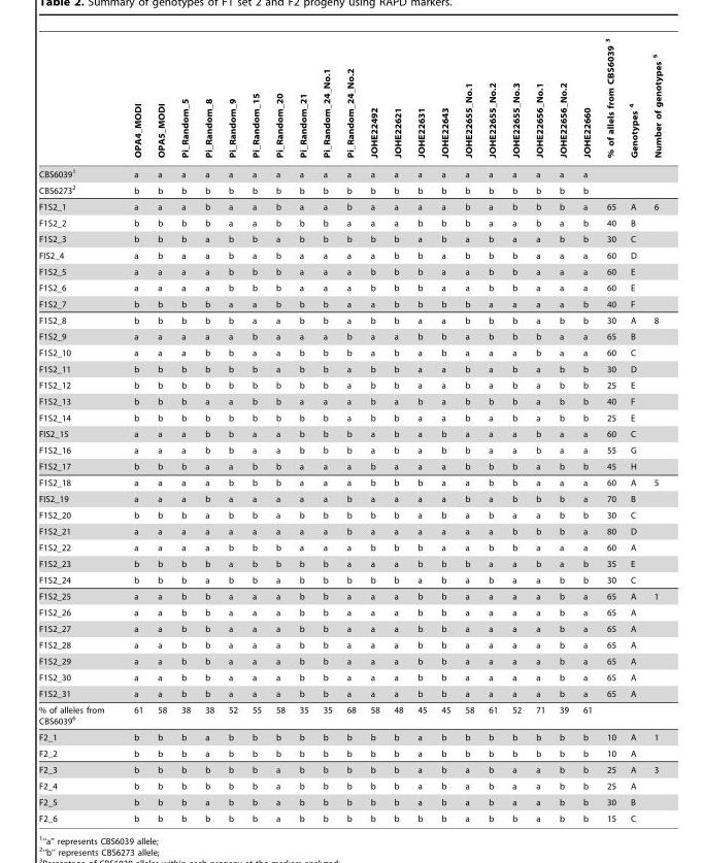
<table><thead><tr><td></td><td>OPA4_MODI</td><td>OPA5_MODI</td><td>Pi_Random_5</td><td>Pi_Random_8</td><td>Pi_Random_9</td><td>Pi_Random_15</td><td>Pi_Random_20</td><td>Pi_Random_21</td><td>Pi_Random_24_No.1</td><td>Pi_Random_24_No.2</td><td>JOHE22492</td><td>JOHE22621</td><td>JOHE22631</td><td>JOHE22643</td><td>JOHE22655_No.1</td><td>JOHE22655_No.2</td><td>JOHE22655_No.3</td><td>JOHE22656_No.1</td><td>JOHE22656_No.2</td><td>JOHE22660</td><td>% of allels from CBS6039 3</td><td>Genotypes 4</td><td>Number of genotypes 5</td></tr></thead><tbody><tr><td>CBS6039<sup>1</sup></td><td>a</td><td>a</td><td>a</td><td>a</td><td>a</td><td>a</td><td>a</td><td>a</td><td>a</td><td>a</td><td>a</td><td>a</td><td>a</td><td>a</td><td>a</td><td>a</td><td>a</td><td>a</td><td>a</td><td>a</td><td></td><td></td><td></td></tr><tr><td>CBS6273<sup>2</sup></td><td>b</td><td>b</td><td>b</td><td>b</td><td>b</td><td>b</td><td>b</td><td>b</td><td>b</td><td>b</td><td>b</td><td>b</td><td>b</td><td>b</td><td>b</td><td>b</td><td>b</td><td>b</td><td>b</td><td>b</td><td></td><td></td><td></td></tr><tr><td>F1S2_1</td><td>a</td><td>a</td><td>a</td><td>b</td><td>a</td><td>a</td><td>b</td><td>a</td><td>a</td><td>b</td><td>a</td><td>a</td><td>a</td><td>a</td><td>b</td><td>a</td><td>b</td><td>b</td><td>b</td><td>a</td><td>65</td><td>A</td><td>6</td></tr><tr><td>F1S2_2</td><td>b</td><td>b</td><td>b</td><td>b</td><td>a</td><td>a</td><td>b</td><td>b</td><td>b</td><td>a</td><td>a</td><td>a</td><td>b</td><td>b</td><td>b</td><td>a</td><td>a</td><td>b</td><td>a</td><td>b</td><td>40</td><td>B</td><td></td></tr><tr><td>F1S2_3</td><td>b</td><td>b</td><td>b</td><td>a</td><td>b</td><td>b</td><td>a</td><td>b</td><td>b</td><td>b</td><td>b</td><td>b</td><td>a</td><td>b</td><td>a</td><td>b</td><td>a</td><td>a</td><td>b</td><td>b</td><td>30</td><td>C</td><td></td></tr><tr><td>FIS2_4</td><td>a</td><td>b</td><td>a</td><td>a</td><td>b</td><td>a</td><td>b</td><td>a</td><td>a</td><td>a</td><td>a</td><td>b</td><td>b</td><td>a</td><td>b</td><td>b</td><td>b</td><td>a</td><td>a</td><td>a</td><td>60</td><td>D</td><td></td></tr><tr><td>F1S2_5</td><td>a</td><td>a</td><td>a</td><td>a</td><td>b</td><td>b</td><td>b</td><td>a</td><td>a</td><td>a</td><td>b</td><td>b</td><td>b</td><td>a</td><td>a</td><td>b</td><td>b</td><td>a</td><td>a</td><td>a</td><td>60</td><td>E</td><td></td></tr><tr><td>F1S2_6</td><td>a</td><td>a</td><td>a</td><td>a</td><td>b</td><td>b</td><td>b</td><td>a</td><td>a</td><td>a</td><td>b</td><td>b</td><td>b</td><td>a</td><td>a</td><td>b</td><td>b</td><td>a</td><td>a</td><td>a</td><td>60</td><td>E</td><td></td></tr><tr><td>F1S2_7</td><td>b</td><td>b</td><td>b</td><td>b</td><td>a</td><td>a</td><td>b</td><td>b</td><td>b</td><td>a</td><td>a</td><td>b</td><td>b</td><td>b</td><td>b</td><td>a</td><td>a</td><td>a</td><td>a</td><td>b</td><td>40</td><td>F</td><td></td></tr><tr><td>F1S2_8</td><td>b</td><td>b</td><td>b</td><td>b</td><td>b</td><td>a</td><td>a</td><td>b</td><td>b</td><td>a</td><td>b</td><td>b</td><td>a</td><td>a</td><td>b</td><td>b</td><td>b</td><td>a</td><td>b</td><td>b</td><td>30</td><td>A</td><td>8</td></tr><tr><td>F1S2_9</td><td>a</td><td>a</td><td>a</td><td>a</td><td>a</td><td>b</td><td>a</td><td>a</td><td>a</td><td>b</td><td>a</td><td>a</td><td>b</td><td>b</td><td>a</td><td>b</td><td>b</td><td>b</td><td>a</td><td>a</td><td>65</td><td>B</td><td></td></tr><tr><td>F1S2_10</td><td>a</td><td>a</td><td>a</td><td>b</td><td>b</td><td>a</td><td>a</td><td>b</td><td>b</td><td>b</td><td>a</td><td>b</td><td>a</td><td>b</td><td>a</td><td>a</td><td>a</td><td>b</td><td>a</td><td>a</td><td>60</td><td>C</td><td></td></tr><tr><td>F1S2_11</td><td>b</td><td>b</td><td>b</td><td>b</td><td>b</td><td>b</td><td>a</td><td>b</td><td>b</td><td>a</td><td>b</td><td>b</td><td>a</td><td>a</td><td>b</td><td>a</td><td>b</td><td>a</td><td>b</td><td>b</td><td>30</td><td>D</td><td></td></tr><tr><td>F1S2_12</td><td>b</td><td>b</td><td>b</td><td>b</td><td>b</td><td>b</td><td>b</td><td>b</td><td>b</td><td>a</td><td>b</td><td>b</td><td>a</td><td>a</td><td>b</td><td>a</td><td>b</td><td>a</td><td>b</td><td>b</td><td>25</td><td>E</td><td></td></tr><tr><td>F1S2_13</td><td>b</td><td>b</td><td>b</td><td>a</td><td>a</td><td>b</td><td>b</td><td>a</td><td>a</td><td>a</td><td>b</td><td>a</td><td>b</td><td>a</td><td>b</td><td>b</td><td>b</td><td>a</td><td>b</td><td>b</td><td>40</td><td>F</td><td></td></tr><tr><td>F1S2_14</td><td>b</td><td>b</td><td>b</td><td>b</td><td>b</td><td>b</td><td>b</td><td>b</td><td>b</td><td>a</td><td>b</td><td>b</td><td>a</td><td>a</td><td>b</td><td>a</td><td>b</td><td>a</td><td>b</td><td>b</td><td>25</td><td>E</td><td></td></tr><tr><td>FIS2_15</td><td>a</td><td>a</td><td>a</td><td>b</td><td>b</td><td>a</td><td>a</td><td>b</td><td>b</td><td>b</td><td>a</td><td>b</td><td>a</td><td>b</td><td>a</td><td>a</td><td>a</td><td>b</td><td>a</td><td>a</td><td>60</td><td>C</td><td></td></tr><tr><td>F1S2_16</td><td>a</td><td>a</td><td>a</td><td>b</td><td>b</td><td>a</td><td>a</td><td>b</td><td>b</td><td>b</td><td>a</td><td>b</td><td>a</td><td>b</td><td>b</td><td>a</td><td>a</td><td>b</td><td>a</td><td>a</td><td>55</td><td>G</td><td></td></tr><tr><td>F1S2_17</td><td>b</td><td>b</td><td>b</td><td>a</td><td>a</td><td>b</td><td>b</td><td>a</td><td>a</td><td>a</td><td>b</td><td>a</td><td>a</td><td>a</td><td>b</td><td>b</td><td>b</td><td>a</td><td>b</td><td>b</td><td>45</td><td>H</td><td></td></tr><tr><td>F1S2_18</td><td>a</td><td>a</td><td>a</td><td>a</td><td>b</td><td>b</td><td>b</td><td>a</td><td>a</td><td>a</td><td>b</td><td>b</td><td>b</td><td>a</td><td>a</td><td>b</td><td>b</td><td>a</td><td>a</td><td>a</td><td>60</td><td>A</td><td>5</td></tr><tr><td>FIS2_19</td><td>a</td><td>a</td><td>a</td><td>b</td><td>a</td><td>a</td><td>a</td><td>a</td><td>a</td><td>b</td><td>a</td><td>a</td><td>a</td><td>a</td><td>b</td><td>a</td><td>b</td><td>b</td><td>b</td><td>a</td><td>70</td><td>B</td><td></td></tr><tr><td>F1S2_20</td><td>b</td><td>b</td><td>b</td><td>a</td><td>b</td><td>b</td><td>a</td><td>b</td><td>b</td><td>b</td><td>b</td><td>b</td><td>a</td><td>b</td><td>a</td><td>b</td><td>a</td><td>a</td><td>b</td><td>b</td><td>30</td><td>C</td><td></td></tr><tr><td>F1S2_21</td><td>a</td><td>a</td><td>a</td><td>a</td><td>a</td><td>a</td><td>a</td><td>a</td><td>a</td><td>b</td><td>a</td><td>a</td><td>a</td><td>a</td><td>a</td><td>a</td><td>b</td><td>b</td><td>b</td><td>a</td><td>80</td><td>D</td><td></td></tr><tr><td>F1S2_22</td><td>a</td><td>a</td><td>a</td><td>a</td><td>b</td><td>b</td><td>b</td><td>a</td><td>a</td><td>a</td><td>b</td><td>b</td><td>b</td><td>a</td><td>a</td><td>b</td><td>b</td><td>a</td><td>a</td><td>a</td><td>60</td><td>A</td><td></td></tr><tr><td>F1S2_23</td><td>b</td><td>b</td><td>b</td><td>b</td><td>a</td><td>b</td><td>b</td><td>b</td><td>b</td><td>a</td><td>a</td><td>a</td><td>b</td><td>b</td><td>b</td><td>a</td><td>a</td><td>b</td><td>a</td><td>b</td><td>35</td><td>E</td><td></td></tr><tr><td>F1S2_24</td><td>b</td><td>b</td><td>b</td><td>a</td><td>b</td><td>b</td><td>a</td><td>b</td><td>b</td><td>b</td><td>b</td><td>b</td><td>a</td><td>b</td><td>a</td><td>b</td><td>a</td><td>a</td><td>b</td><td>b</td><td>30</td><td>C</td><td></td></tr><tr><td>F1S2_25</td><td>a</td><td>a</td><td>b</td><td>b</td><td>a</td><td>a</td><td>a</td><td>b</td><td>b</td><td>a</td><td>a</td><td>a</td><td>b</td><td>b</td><td>a</td><td>a</td><td>a</td><td>a</td><td>b</td><td>a</td><td>65</td><td>A</td><td>1</td></tr><tr><td>F1S2_26</td><td>a</td><td>a</td><td>b</td><td>b</td><td>a</td><td>a</td><td>a</td><td>b</td><td>b</td><td>a</td><td>a</td><td>a</td><td>b</td><td>b</td><td>a</td><td>a</td><td>a</td><td>a</td><td>b</td><td>a</td><td>65</td><td>A</td><td></td></tr><tr><td>F1S2_27</td><td>a</td><td>a</td><td>b</td><td>b</td><td>a</td><td>a</td><td>a</td><td>b</td><td>b</td><td>a</td><td>a</td><td>a</td><td>b</td><td>b</td><td>a</td><td>a</td><td>a</td><td>a</td><td>b</td><td>a</td><td>65</td><td>A</td><td></td></tr><tr><td>F1S2_28</td><td>a</td><td>a</td><td>b</td><td>b</td><td>a</td><td>a</td><td>a</td><td>b</td><td>b</td><td>a</td><td>a</td><td>a</td><td>b</td><td>b</td><td>a</td><td>a</td><td>a</td><td>a</td><td>b</td><td>a</td><td>65</td><td>A</td><td></td></tr><tr><td>F1S2_29</td><td>a</td><td>a</td><td>b</td><td>b</td><td>a</td><td>a</td><td>a</td><td>b</td><td>b</td><td>a</td><td>a</td><td>a</td><td>b</td><td>b</td><td>a</td><td>a</td><td>a</td><td>a</td><td>b</td><td>a</td><td>65</td><td>A</td><td></td></tr><tr><td>F1S2_30</td><td>a</td><td>a</td><td>b</td><td>b</td><td>a</td><td>a</td><td>a</td><td>b</td><td>b</td><td>a</td><td>a</td><td>a</td><td>b</td><td>b</td><td>a</td><td>a</td><td>a</td><td>a</td><td>b</td><td>a</td><td>65</td><td>A</td><td></td></tr><tr><td>F1S2_31</td><td>a</td><td>a</td><td>b</td><td>b</td><td>a</td><td>a</td><td>a</td><td>b</td><td>b</td><td>a</td><td>a</td><td>a</td><td>b</td><td>b</td><td>a</td><td>a</td><td>a</td><td>a</td><td>b</td><td>a</td><td>65</td><td>A</td><td></td></tr><tr><td>% of alleles from CBS6039<sup>6</sup></td><td>61</td><td>58</td><td>38</td><td>38</td><td>52</td><td>55</td><td>58</td><td>35</td><td>35</td><td>68</td><td>58</td><td>48</td><td>45</td><td>45</td><td>58</td><td>61</td><td>52</td><td>71</td><td>39</td><td>61</td><td></td><td></td><td></td></tr><tr><td>F2_1</td><td>b</td><td>b</td><td>b</td><td>a</td><td>b</td><td>b</td><td>b</td><td>b</td><td>b</td><td>b</td><td>b</td><td>b</td><td>a</td><td>b</td><td>b</td><td>b</td><td>b</td><td>b</td><td>b</td><td>b</td><td>10</td><td>A</td><td>1</td></tr><tr><td>F2_2</td><td>b</td><td>b</td><td>b</td><td>a</td><td>b</td><td>b</td><td>b</td><td>b</td><td>b</td><td>b</td><td>b</td><td>b</td><td>a</td><td>b</td><td>b</td><td>b</td><td>b</td><td>b</td><td>b</td><td>b</td><td>10</td><td>A</td><td></td></tr><tr><td>F2_3</td><td>b</td><td>b</td><td>b</td><td>b</td><td>b</td><td>b</td><td>a</td><td>b</td><td>b</td><td>b</td><td>b</td><td>b</td><td>a</td><td>b</td><td>a</td><td>b</td><td>a</td><td>a</td><td>b</td><td>b</td><td>25</td><td>A</td><td>3</td></tr><tr><td>F2_4</td><td>b</td><td>b</td><td>b</td><td>b</td><td>b</td><td>b</td><td>a</td><td>b</td><td>b</td><td>b</td><td>b</td><td>b</td><td>a</td><td>b</td><td>a</td><td>b</td><td>a</td><td>a</td><td>b</td><td>b</td><td>25</td><td>A</td><td></td></tr><tr><td>F2_5</td><td>b</td><td>b</td><td>b</td><td>a</td><td>b</td><td>b</td><td>a</td><td>b</td><td>b</td><td>b</td><td>b</td><td>b</td><td>a</td><td>b</td><td>a</td><td>b</td><td>a</td><td>a</td><td>b</td><td>b</td><td>30</td><td>B</td><td></td></tr><tr><td>F2_6</td><td>b</td><td>b</td><td>b</td><td>b</td><td>b</td><td>b</td><td>a</td><td>b</td><td>b</td><td>b</td><td>b</td><td>b</td><td>b</td><td>b</td><td>a</td><td>b</td><td>b</td><td>a</td><td>b</td><td>b</td><td>15</td><td>C</td><td></td></tr></tbody></table>